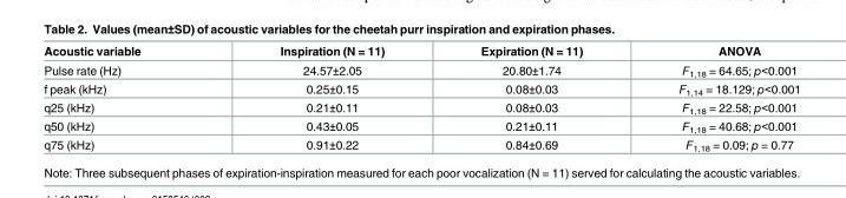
<table><thead><tr><td>Acoustic variable</td><td>Inspiration (N = 11)</td><td>Expiration (N = 11)</td><td>ANOVA</td></tr></thead><tbody><tr><td>Pulse rate (Hz)</td><td>24.57±2.05</td><td>20.80±1.74</td><td>F1,18 = 64.65; p&lt;0.001</td></tr><tr><td>f peak (kHz)</td><td>0.25±0.15</td><td>0.08±0.03</td><td>F1,14 = 18.129; p&lt;0.001</td></tr><tr><td>q25 (kHz)</td><td>0.21±0.11</td><td>0.08±0.03</td><td>F1,18 = 22.58; p&lt;0.001</td></tr><tr><td>q50 (kHz)</td><td>0.43±0.05</td><td>0.21±0.11</td><td>F1,18 = 40.68; p&lt;0.001</td></tr><tr><td>q75 (kHz)</td><td>0.91±0.22</td><td>0.84±0.69</td><td>F1,18 = 0.09; p = 0.77</td></tr></tbody></table>